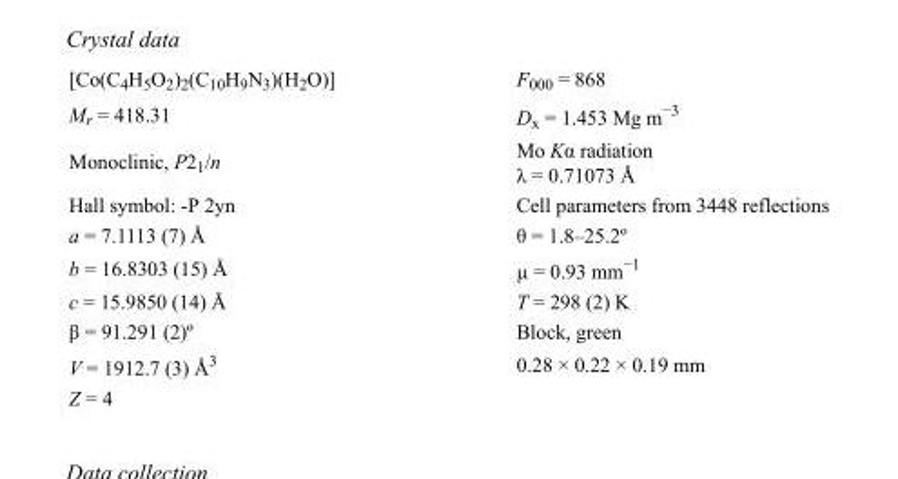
<table><tbody><tr><td>[Co(C<sub>4</sub>H<sub>5</sub>O<sub>2</sub>)<sub>2</sub>(C<sub>10</sub>H<sub>9</sub>N<sub>3</sub>)(H<sub>2</sub>O)]</td><td>F<sub>000</sub> = 868</td></tr><tr><td>M<sub>r</sub> = 418.31</td><td>D<sub>x</sub> = 1.453 Mg m<sup>−3</sup></td></tr><tr><td>Monoclinic, P2<sub>1</sub>/n</td><td>Mo Kα radiation λ = 0.71073 Å</td></tr><tr><td>Hall symbol: -P 2yn</td><td>Cell parameters from 3448 reflections</td></tr><tr><td>a = 7.1113 (7) Å</td><td>θ = 1.8–25.2º</td></tr><tr><td>b = 16.8303 (15) Å</td><td>µ = 0.93 mm<sup>−1</sup></td></tr><tr><td>c = 15.9850 (14) Å</td><td>T = 298 (2) K</td></tr><tr><td>β = 91.291 (2)º</td><td>Block, green</td></tr><tr><td>V = 1912.7 (3) Å<sup>3</sup></td><td>0.28 × 0.22 × 0.19 mm</td></tr><tr><td>Z = 4</td><td></td></tr></tbody></table>